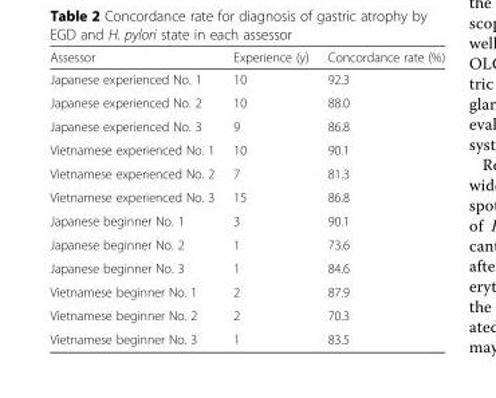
<table><thead><tr><td>Assessor</td><td>Experience (y)</td><td>Concordance rate (%)</td></tr></thead><tbody><tr><td>Japanese experienced No. 1</td><td>10</td><td>92.3</td></tr><tr><td>Japanese experienced No. 2</td><td>10</td><td>88.0</td></tr><tr><td>Japanese experienced No. 3</td><td>9</td><td>86.8</td></tr><tr><td>Vietnamese experienced No. 1</td><td>10</td><td>90.1</td></tr><tr><td>Vietnamese experienced No. 2</td><td>7</td><td>81.3</td></tr><tr><td>Vietnamese experienced No. 3</td><td>15</td><td>86.8</td></tr><tr><td>Japanese beginner No. 1</td><td>3</td><td>90.1</td></tr><tr><td>Japanese beginner No. 2</td><td>1</td><td>73.6</td></tr><tr><td>Japanese beginner No. 3</td><td>1</td><td>84.6</td></tr><tr><td>Vietnamese beginner No. 1</td><td>2</td><td>87.9</td></tr><tr><td>Vietnamese beginner No. 2</td><td>2</td><td>70.3</td></tr><tr><td>Vietnamese beginner No. 3</td><td>1</td><td>83.5</td></tr></tbody></table>